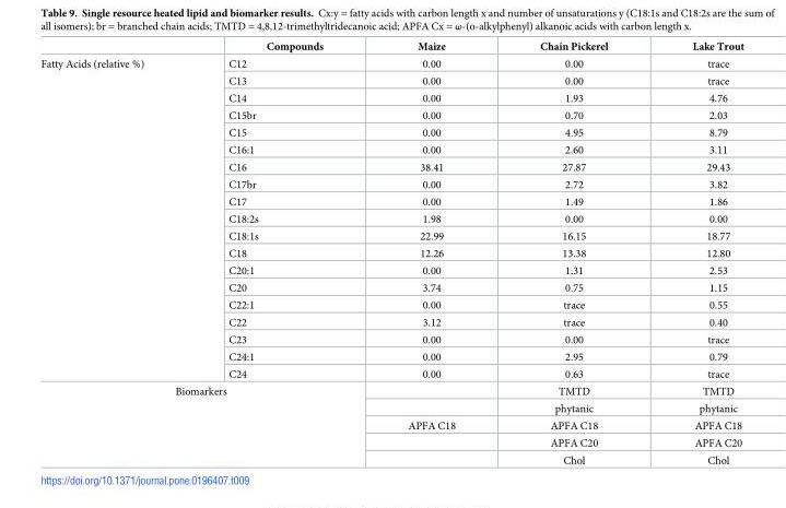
<table><thead><tr><td></td><td>Compounds</td><td>Maize</td><td>Chain Pickerel</td><td>Lake Trout</td></tr></thead><tbody><tr><td rowspan="19">Fatty Acids (relative %)</td><td>C12</td><td>0.00</td><td>0.00</td><td>trace</td></tr><tr><td>C13</td><td>0.00</td><td>0.00</td><td>trace</td></tr><tr><td>C14</td><td>0.00</td><td>1.93</td><td>4.76</td></tr><tr><td>C15br</td><td>0.00</td><td>0.70</td><td>2.03</td></tr><tr><td>C15</td><td>0.00</td><td>4.95</td><td>8.79</td></tr><tr><td>C16:1</td><td>0.00</td><td>2.60</td><td>3.11</td></tr><tr><td>C16</td><td>38.41</td><td>27.87</td><td>29.43</td></tr><tr><td>C17br</td><td>0.00</td><td>2.72</td><td>3.82</td></tr><tr><td>C17</td><td>0.00</td><td>1.49</td><td>1.86</td></tr><tr><td>C18:2s</td><td>1.98</td><td>0.00</td><td>0.00</td></tr><tr><td>C18:1s</td><td>22.99</td><td>16.15</td><td>18.77</td></tr><tr><td>C18</td><td>12.26</td><td>13.38</td><td>12.80</td></tr><tr><td>C20:1</td><td>0.00</td><td>1.31</td><td>2.53</td></tr><tr><td>C20</td><td>3.74</td><td>0.75</td><td>1.15</td></tr><tr><td>C22:1</td><td>0.00</td><td>trace</td><td>0.55</td></tr><tr><td>C22</td><td>3.12</td><td>trace</td><td>0.40</td></tr><tr><td>C23</td><td>0.00</td><td>0.00</td><td>trace</td></tr><tr><td>C24:1</td><td>0.00</td><td>2.95</td><td>0.79</td></tr><tr><td>C24</td><td>0.00</td><td>0.63</td><td>trace</td></tr><tr><td rowspan="5" colspan="2">Biomarkers</td><td></td><td>TMTD</td><td>TMTD</td></tr><tr><td></td><td>phytanic</td><td>phytanic</td></tr><tr><td>APFA C18</td><td>APFA C18</td><td>APFA C18</td></tr><tr><td></td><td>APFA C20</td><td>APFA C20</td></tr><tr><td></td><td>Chol</td><td>Chol</td></tr></tbody></table>